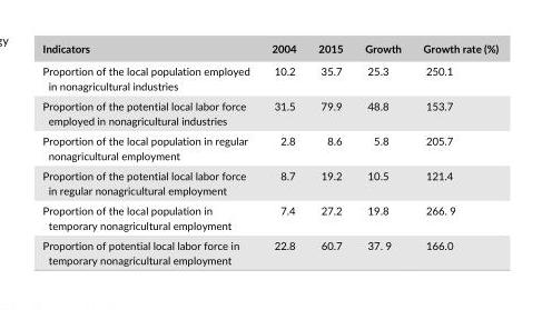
<table><thead><tr><td>Indicators</td><td>2004</td><td>2015</td><td>Growth</td><td>Growth rate (%)</td></tr></thead><tbody><tr><td>Proportion of the local population employed in nonagricultural industries</td><td>10.2</td><td>35.7</td><td>25.3</td><td>250.1</td></tr><tr><td>Proportion of the potential local labor force employed in nonagricultural industries</td><td>31.5</td><td>79.9</td><td>48.8</td><td>153.7</td></tr><tr><td>Proportion of the local population in regular nonagricultural employment</td><td>2.8</td><td>8.6</td><td>5.8</td><td>205.7</td></tr><tr><td>Proportion of the potential local labor force in regular nonagricultural employment</td><td>8.7</td><td>19.2</td><td>10.5</td><td>121.4</td></tr><tr><td>Proportion of the local population in temporary nonagricultural employment</td><td>7.4</td><td>27.2</td><td>19.8</td><td>266. 9</td></tr><tr><td>Proportion of potential local labor force in temporary nonagricultural employment</td><td>22.8</td><td>60.7</td><td>37. 9</td><td>166.0</td></tr></tbody></table>